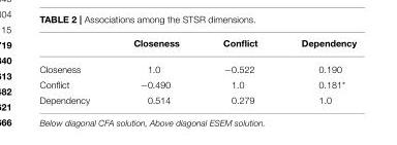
<table><thead><tr><td></td><td>Closeness</td><td>Conflict</td><td>Dependency</td></tr></thead><tbody><tr><td>Closeness</td><td>1.0</td><td>−0.522</td><td>0.190</td></tr><tr><td>Conflict</td><td>−0.490</td><td>1.0</td><td>0.181*</td></tr><tr><td>Dependency</td><td>0.514</td><td>0.279</td><td>1.0</td></tr></tbody></table>